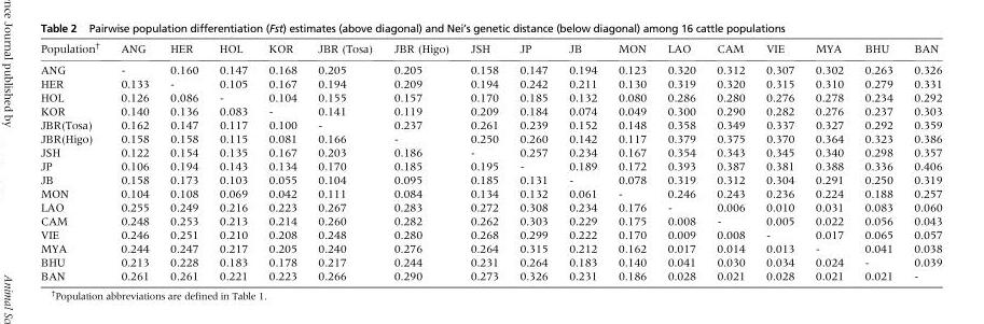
<table><thead><tr><td>Population†</td><td>ANG</td><td>HER</td><td>HOL</td><td>KOR</td><td>JBR (Tosa)</td><td>JBR (Higo)</td><td>JSH</td><td>JP</td><td>JB</td><td>MON</td><td>LAO</td><td>CAM</td><td>VIE</td><td>MYA</td><td>BHU</td><td>BAN</td></tr></thead><tbody><tr><td>ANG</td><td>-</td><td>0.160</td><td>0.147</td><td>0.168</td><td>0.205</td><td>0.205</td><td>0.158</td><td>0.147</td><td>0.194</td><td>0.123</td><td>0.320</td><td>0.312</td><td>0.307</td><td>0.302</td><td>0.263</td><td>0.326</td></tr><tr><td>HER</td><td>0.133</td><td>-</td><td>0.105</td><td>0.167</td><td>0.194</td><td>0.209</td><td>0.194</td><td>0.242</td><td>0.211</td><td>0.130</td><td>0.319</td><td>0.320</td><td>0.315</td><td>0.310</td><td>0.279</td><td>0.331</td></tr><tr><td>HOL</td><td>0.126</td><td>0.086</td><td>-</td><td>0.104</td><td>0.155</td><td>0.157</td><td>0.170</td><td>0.185</td><td>0.132</td><td>0.080</td><td>0.286</td><td>0.280</td><td>0.276</td><td>0.278</td><td>0.234</td><td>0.292</td></tr><tr><td>KOR</td><td>0.140</td><td>0.136</td><td>0.083</td><td>-</td><td>0.141</td><td>0.119</td><td>0.209</td><td>0.184</td><td>0.074</td><td>0.049</td><td>0.300</td><td>0.290</td><td>0.282</td><td>0.276</td><td>0.237</td><td>0.303</td></tr><tr><td>JBR(Tosa)</td><td>0.162</td><td>0.147</td><td>0.117</td><td>0.100</td><td>-</td><td>0.237</td><td>0.261</td><td>0.239</td><td>0.152</td><td>0.148</td><td>0.358</td><td>0.349</td><td>0.337</td><td>0.327</td><td>0.292</td><td>0.359</td></tr><tr><td>JBR(Higo)</td><td>0.158</td><td>0.158</td><td>0.115</td><td>0.081</td><td>0.166</td><td>-</td><td>0.250</td><td>0.260</td><td>0.142</td><td>0.117</td><td>0.379</td><td>0.375</td><td>0.370</td><td>0.364</td><td>0.323</td><td>0.386</td></tr><tr><td>JSH</td><td>0.122</td><td>0.154</td><td>0.135</td><td>0.167</td><td>0.203</td><td>0.186</td><td>-</td><td>0.257</td><td>0.234</td><td>0.167</td><td>0.354</td><td>0.343</td><td>0.345</td><td>0.340</td><td>0.298</td><td>0.357</td></tr><tr><td>JP</td><td>0.106</td><td>0.194</td><td>0.143</td><td>0.134</td><td>0.170</td><td>0.185</td><td>0.195</td><td>-</td><td>0.189</td><td>0.172</td><td>0.393</td><td>0.387</td><td>0.381</td><td>0.388</td><td>0.336</td><td>0.406</td></tr><tr><td>JB</td><td>0.158</td><td>0.173</td><td>0.103</td><td>0.055</td><td>0.104</td><td>0.095</td><td>0.185</td><td>0.131</td><td>-</td><td>0.078</td><td>0.319</td><td>0.312</td><td>0.304</td><td>0.291</td><td>0.250</td><td>0.319</td></tr><tr><td>MON</td><td>0.104</td><td>0.108</td><td>0.069</td><td>0.042</td><td>0.111</td><td>0.084</td><td>0.134</td><td>0.132</td><td>0.061</td><td>-</td><td>0.246</td><td>0.243</td><td>0.236</td><td>0.224</td><td>0.188</td><td>0.257</td></tr><tr><td>LAO</td><td>0.255</td><td>0.249</td><td>0.216</td><td>0.223</td><td>0.267</td><td>0.283</td><td>0.272</td><td>0.308</td><td>0.234</td><td>0.176</td><td>-</td><td>0.006</td><td>0.010</td><td>0.031</td><td>0.083</td><td>0.060</td></tr><tr><td>CAM</td><td>0.248</td><td>0.253</td><td>0.213</td><td>0.214</td><td>0.260</td><td>0.282</td><td>0.262</td><td>0.303</td><td>0.229</td><td>0.175</td><td>0.008</td><td>-</td><td>0.005</td><td>0.022</td><td>0.056</td><td>0.043</td></tr><tr><td>VIE</td><td>0.246</td><td>0.251</td><td>0.210</td><td>0.208</td><td>0.248</td><td>0.280</td><td>0.268</td><td>0.299</td><td>0.222</td><td>0.170</td><td>0.009</td><td>0.008</td><td>-</td><td>0.017</td><td>0.065</td><td>0.057</td></tr><tr><td>MYA</td><td>0.244</td><td>0.247</td><td>0.217</td><td>0.205</td><td>0.240</td><td>0.276</td><td>0.264</td><td>0.315</td><td>0.212</td><td>0.162</td><td>0.017</td><td>0.014</td><td>0.013</td><td>-</td><td>0.041</td><td>0.038</td></tr><tr><td>BHU</td><td>0.213</td><td>0.228</td><td>0.183</td><td>0.178</td><td>0.217</td><td>0.244</td><td>0.231</td><td>0.264</td><td>0.183</td><td>0.140</td><td>0.041</td><td>0.030</td><td>0.034</td><td>0.024</td><td>-</td><td>0.039</td></tr><tr><td>BAN</td><td>0.261</td><td>0.261</td><td>0.221</td><td>0.223</td><td>0.266</td><td>0.290</td><td>0.273</td><td>0.326</td><td>0.231</td><td>0.186</td><td>0.028</td><td>0.021</td><td>0.028</td><td>0.021</td><td>0.021</td><td>-</td></tr></tbody></table>